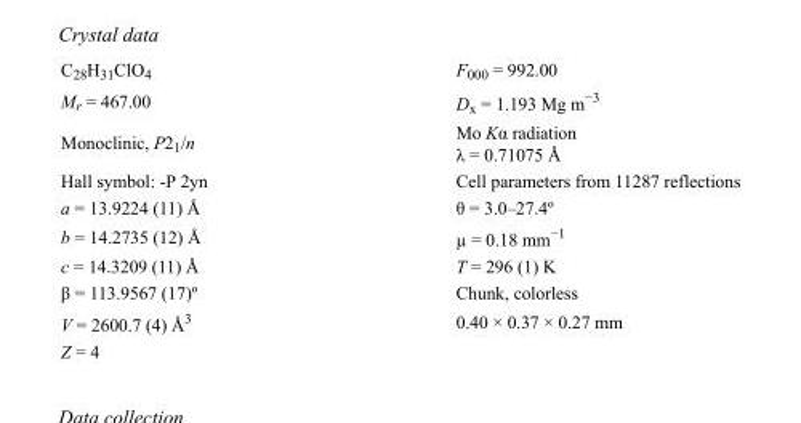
<table><tbody><tr><td>C<sub>28</sub>H<sub>31</sub>ClO<sub>4</sub></td><td>F000 = 992.00</td></tr><tr><td>M<sub>r</sub> = 467.00</td><td>D<sub>x</sub> = 1.193 Mg m<sup>−3</sup></td></tr><tr><td>Monoclinic, P2<sub>1</sub>/n</td><td>Mo Kα radiation λ = 0.71075 Å</td></tr><tr><td>Hall symbol: -P 2yn</td><td>Cell parameters from 11287 reflections</td></tr><tr><td>a = 13.9224 (11) Å</td><td>θ = 3.0–27.4º</td></tr><tr><td>b = 14.2735 (12) Å</td><td>µ = 0.18 mm<sup>−1</sup></td></tr><tr><td>c = 14.3209 (11) Å</td><td>T = 296 (1) K</td></tr><tr><td>β = 113.9567 (17)º</td><td>Chunk, colorless</td></tr><tr><td>V = 2600.7 (4) Å<sup>3</sup></td><td>0.40 × 0.37 × 0.27 mm</td></tr><tr><td>Z = 4</td><td></td></tr></tbody></table>